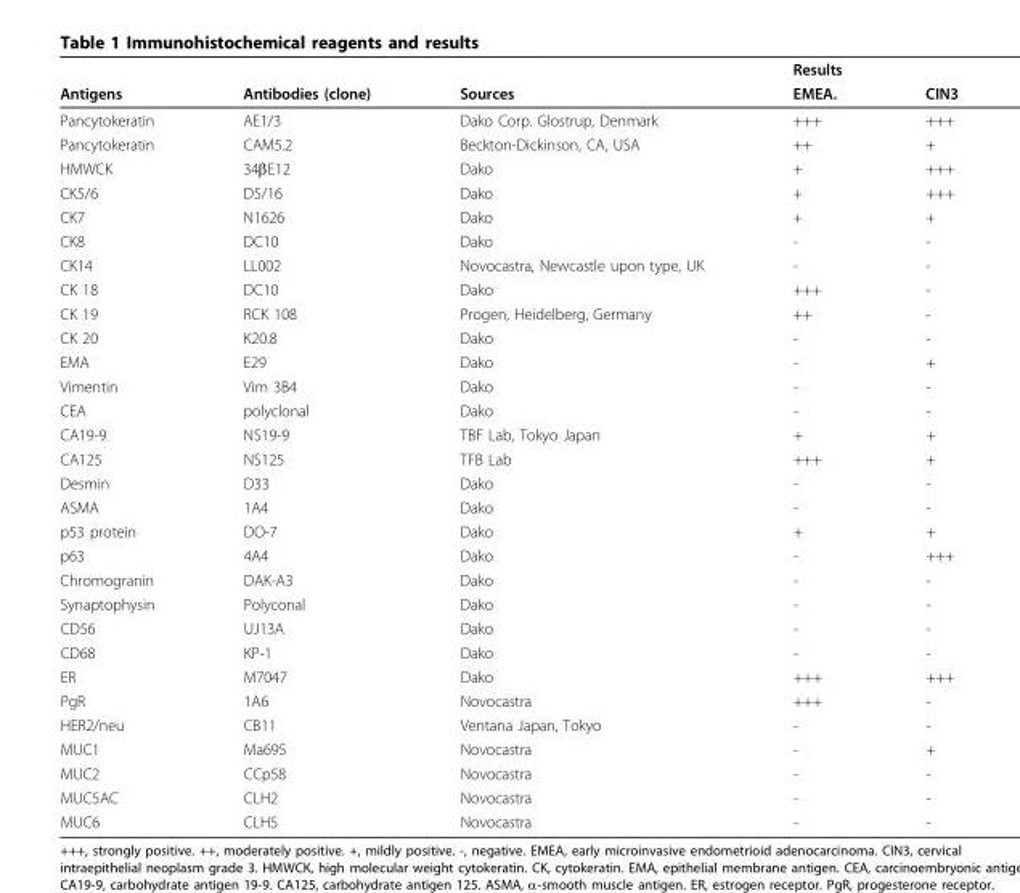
<table><thead><tr><td rowspan="2">Antigens</td><td rowspan="2">Antibodies (clone)</td><td rowspan="2">Sources</td><td colspan="2">Results</td></tr><tr><td>EMEA.</td><td>CIN3</td></tr></thead><tbody><tr><td>Pancytokeratin</td><td>AE1/3</td><td>Dako Corp. Glostrup, Denmark</td><td>+++</td><td>+++</td></tr><tr><td>Pancytokeratin</td><td>CAM5.2</td><td>Beckton-Dickinson, CA, USA</td><td>++</td><td>+</td></tr><tr><td>HMWCK</td><td>34βE12</td><td>Dako</td><td>+</td><td>+++</td></tr><tr><td>CK5/6</td><td>D5/16</td><td>Dako</td><td>+</td><td>+++</td></tr><tr><td>CK7</td><td>N1626</td><td>Dako</td><td>+</td><td>+</td></tr><tr><td>CK8</td><td>DC10</td><td>Dako</td><td>-</td><td>-</td></tr><tr><td>CK14</td><td>LL002</td><td>Novocastra, Newcastle upon type, UK</td><td>-</td><td>-</td></tr><tr><td>CK 18</td><td>DC10</td><td>Dako</td><td>+++</td><td>-</td></tr><tr><td>CK 19</td><td>RCK 108</td><td>Progen, Heidelberg, Germany</td><td>++</td><td>-</td></tr><tr><td>CK 20</td><td>K20.8</td><td>Dako</td><td>-</td><td>-</td></tr><tr><td>EMA</td><td>E29</td><td>Dako</td><td>-</td><td>+</td></tr><tr><td>Vimentin</td><td>Vim 3B4</td><td>Dako</td><td>-</td><td>-</td></tr><tr><td>CEA</td><td>polyclonal</td><td>Dako</td><td>-</td><td>-</td></tr><tr><td>CA19-9</td><td>NS19-9</td><td>TBF Lab, Tokyo Japan</td><td>+</td><td>+</td></tr><tr><td>CA125</td><td>NS125</td><td>TFB Lab</td><td>+++</td><td>+</td></tr><tr><td>Desmin</td><td>D33</td><td>Dako</td><td>-</td><td>-</td></tr><tr><td>ASMA</td><td>1A4</td><td>Dako</td><td>-</td><td>-</td></tr><tr><td>p53 protein</td><td>DO-7</td><td>Dako</td><td>+</td><td>+</td></tr><tr><td>p63</td><td>4A4</td><td>Dako</td><td>-</td><td>+++</td></tr><tr><td>Chromogranin</td><td>DAK-A3</td><td>Dako</td><td>-</td><td>-</td></tr><tr><td>Synaptophysin</td><td>Polyconal</td><td>Dako</td><td>-</td><td>-</td></tr><tr><td>CD56</td><td>UJ13A</td><td>Dako</td><td>-</td><td>-</td></tr><tr><td>CD68</td><td>KP-1</td><td>Dako</td><td>-</td><td>-</td></tr><tr><td>ER</td><td>M7047</td><td>Dako</td><td>+++</td><td>+++</td></tr><tr><td>PgR</td><td>1A6</td><td>Novocastra</td><td>+++</td><td>-</td></tr><tr><td>HER2/neu</td><td>CB11</td><td>Ventana Japan, Tokyo</td><td>-</td><td>-</td></tr><tr><td>MUC1</td><td>Ma695</td><td>Novocastra</td><td>-</td><td>+</td></tr><tr><td>MUC2</td><td>CCp58</td><td>Novocastra</td><td>-</td><td>-</td></tr><tr><td>MUC5AC</td><td>CLH2</td><td>Novocastra</td><td>-</td><td>-</td></tr><tr><td>MUC6</td><td>CLH5</td><td>Novocastra</td><td>-</td><td>-</td></tr></tbody></table>